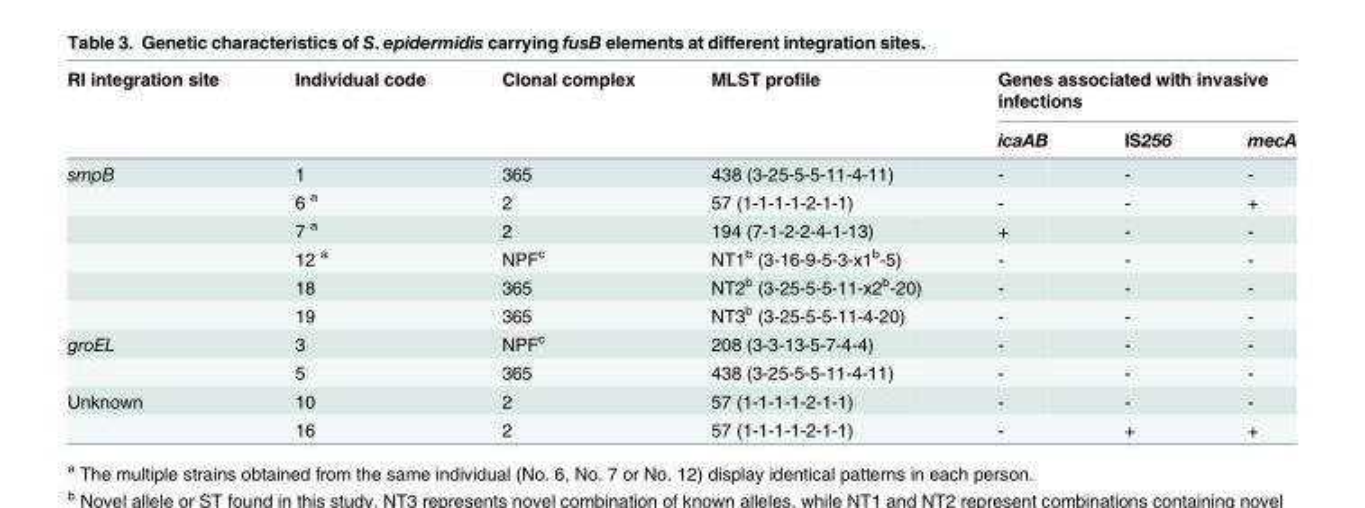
<table><thead><tr><td rowspan="2">RI integration site</td><td rowspan="2">Individual code</td><td rowspan="2">Clonal complex</td><td rowspan="2">MLST profile</td><td colspan="3">Genes associated with invasive infections</td></tr><tr><td>icaAB</td><td>IS256</td><td>mecA</td></tr></thead><tbody><tr><td rowspan="6">smpB</td><td>1</td><td>365</td><td>438 (3-25-5-5-11-4-11)</td><td>-</td><td>-</td><td>-</td></tr><tr><td>6 <sup>a</sup></td><td>2</td><td>57 (1-1-1-1-2-1-1)</td><td>-</td><td>-</td><td>+</td></tr><tr><td>7 <sup>a</sup></td><td>2</td><td>194 (7-1-2-2-4-1-13)</td><td>+</td><td>-</td><td>-</td></tr><tr><td>12 <sup>a</sup></td><td>NPF<sup>c</sup></td><td>NT1<sup>b</sup> (3-16-9-5-3-x1<sup>b</sup>-5)</td><td>-</td><td>-</td><td>-</td></tr><tr><td>18</td><td>365</td><td>NT2<sup>b</sup> (3-25-5-5-11-x2<sup>b</sup>-20)</td><td>-</td><td>-</td><td>-</td></tr><tr><td>19</td><td>365</td><td>NT3<sup>b</sup> (3-25-5-5-11-4-20)</td><td>-</td><td>-</td><td>-</td></tr><tr><td rowspan="2">groEL</td><td>3</td><td>NPF<sup>c</sup></td><td>208 (3-3-13-5-7-4-4)</td><td>-</td><td>-</td><td>-</td></tr><tr><td>5</td><td>365</td><td>438 (3-25-5-5-11-4-11)</td><td>-</td><td>-</td><td>-</td></tr><tr><td rowspan="2">Unknown</td><td>10</td><td>2</td><td>57 (1-1-1-1-2-1-1)</td><td>-</td><td>-</td><td>-</td></tr><tr><td>16</td><td>2</td><td>57 (1-1-1-1-2-1-1)</td><td>-</td><td>+</td><td>+</td></tr></tbody></table>